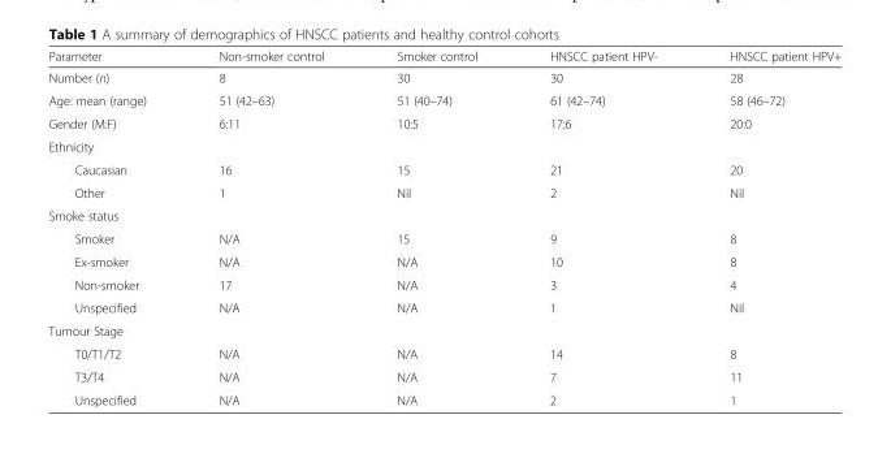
<table><thead><tr><td>Parameter</td><td>Non-smoker control</td><td>Smoker control</td><td>HNSCC patient HPV-</td><td>HNSCC patient HPV+</td></tr></thead><tbody><tr><td>Number (n)</td><td>8</td><td>30</td><td>30</td><td>28</td></tr><tr><td>Age: mean (range)</td><td>51 (42–63)</td><td>51 (40–74)</td><td>61 (42–74)</td><td>58 (46–72)</td></tr><tr><td>Gender (M:F)</td><td>6:11</td><td>10:5</td><td>17:6</td><td>20:0</td></tr><tr><td colspan="5">Ethnicity</td></tr><tr><td>Caucasian</td><td>16</td><td>15</td><td>21</td><td>20</td></tr><tr><td>Other</td><td>1</td><td>Nil</td><td>2</td><td>Nil</td></tr><tr><td colspan="5">Smoke status</td></tr><tr><td>Smoker</td><td>N/A</td><td>15</td><td>9</td><td>8</td></tr><tr><td>Ex-smoker</td><td>N/A</td><td>N/A</td><td>10</td><td>8</td></tr><tr><td>Non-smoker</td><td>17</td><td>N/A</td><td>3</td><td>4</td></tr><tr><td>Unspecified</td><td>N/A</td><td>N/A</td><td>1</td><td>Nil</td></tr><tr><td colspan="5">Tumour Stage</td></tr><tr><td>T0/T1/T2</td><td>N/A</td><td>N/A</td><td>14</td><td>8</td></tr><tr><td>T3/T4</td><td>N/A</td><td>N/A</td><td>7</td><td>11</td></tr><tr><td>Unspecified</td><td>N/A</td><td>N/A</td><td>2</td><td>1</td></tr></tbody></table>